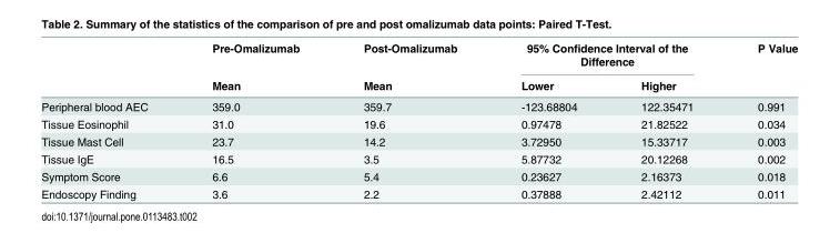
<table><thead><tr><td rowspan="2"></td><td rowspan="2">Pre-Omalizumab Mean</td><td rowspan="2">Post-Omalizumab Mean</td><td colspan="2">95% Confidence Interval of the Difference</td><td rowspan="2">P Value</td></tr><tr><td>Lower</td><td>Higher</td></tr></thead><tbody><tr><td>Peripheral blood AEC</td><td>359.0</td><td>359.7</td><td>-123.68804</td><td>122.35471</td><td>0.991</td></tr><tr><td>Tissue Eosinophil</td><td>31.0</td><td>19.6</td><td>0.97478</td><td>21.82522</td><td>0.034</td></tr><tr><td>Tissue Mast Cell</td><td>23.7</td><td>14.2</td><td>3.72950</td><td>15.33717</td><td>0.003</td></tr><tr><td>Tissue IgE</td><td>16.5</td><td>3.5</td><td>5.87732</td><td>20.12268</td><td>0.002</td></tr><tr><td>Symptom Score</td><td>6.6</td><td>5.4</td><td>0.23627</td><td>2.16373</td><td>0.018</td></tr><tr><td>Endoscopy Finding</td><td>3.6</td><td>2.2</td><td>0.37888</td><td>2.42112</td><td>0.011</td></tr></tbody></table>